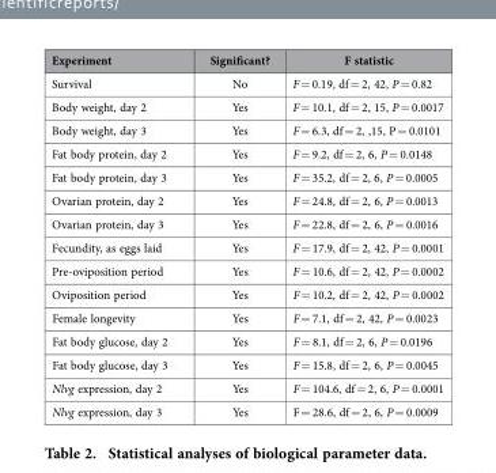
<table><thead><tr><td>Experiment</td><td>Significant?</td><td>F statistic</td></tr></thead><tbody><tr><td>Survival</td><td>No</td><td>F = 0.19, df = 2, 42, P = 0.82</td></tr><tr><td>Body weight, day 2</td><td>Yes</td><td>F = 10.1, df = 2, 15, P = 0.0017</td></tr><tr><td>Body weight, day 3</td><td>Yes</td><td>F = 6.3, df = 2, ,15, P = 0.0101</td></tr><tr><td>Fat body protein, day 2</td><td>Yes</td><td>F = 9.2, df = 2, 6, P = 0.0148</td></tr><tr><td>Fat body protein, day 3</td><td>Yes</td><td>F = 35.2, df = 2, 6, P = 0.0005</td></tr><tr><td>Ovarian protein, day 2</td><td>Yes</td><td>F = 24.8, df = 2, 6, P = 0.0013</td></tr><tr><td>Ovarian protein, day 3</td><td>Yes</td><td>F = 22.8, df = 2, 6, P = 0.0016</td></tr><tr><td>Fecundity, as eggs laid</td><td>Yes</td><td>F = 17.9, df = 2, 42, P = 0.0001</td></tr><tr><td>Pre-oviposition period</td><td>Yes</td><td>F = 10.6, df = 2, 42, P = 0.0002</td></tr><tr><td>Oviposition period</td><td>Yes</td><td>F = 10.2, df = 2, 42, P = 0.0002</td></tr><tr><td>Female longevity</td><td>Yes</td><td>F = 7.1, df = 2, 42, P = 0.0023</td></tr><tr><td>Fat body glucose, day 2</td><td>Yes</td><td>F = 8.1, df = 2, 6, P = 0.0196</td></tr><tr><td>Fat body glucose, day 3</td><td>Yes</td><td>F = 15.8, df = 2, 6, P = 0.0045</td></tr><tr><td>Nlvg expression, day 2</td><td>Yes</td><td>F = 104.6, df = 2, 6, P = 0.0001</td></tr><tr><td>Nlvg expression, day 3</td><td>Yes</td><td>F = 28.6, df = 2, 6, P = 0.0009</td></tr></tbody></table>